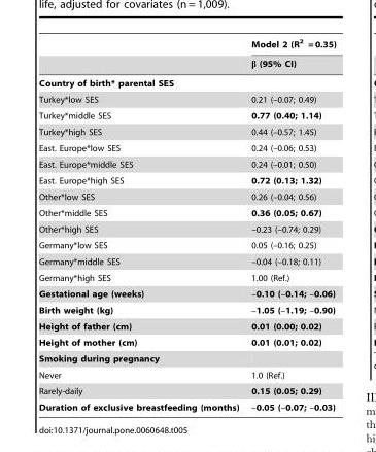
<table><thead><tr><td rowspan="2"></td><td rowspan="2">Model 2 (R<sup>2</sup> = 0.35) β (95% CI)</td></tr><tr></tr></thead><tbody><tr><td colspan="2">Country of birth* parental SES</td></tr><tr><td>Turkey*low SES</td><td>0.21 (–0.07; 0.49)</td></tr><tr><td>Turkey*middle SES</td><td>0.77 (0.40; 1.14)</td></tr><tr><td>Turkey*high SES</td><td>0.44 (–0.57; 1.45)</td></tr><tr><td>East. Europe*low SES</td><td>0.24 (–0.06; 0.53)</td></tr><tr><td>East. Europe*middle SES</td><td>0.24 (–0.01; 0.50)</td></tr><tr><td>East. Europe*high SES</td><td>0.72 (0.13; 1.32)</td></tr><tr><td>Other*low SES</td><td>0.26 (–0.04; 0.56)</td></tr><tr><td>Other*middle SES</td><td>0.36 (0.05; 0.67)</td></tr><tr><td>Other*high SES</td><td>–0.23 (–0.74; 0.29)</td></tr><tr><td>Germany*low SES</td><td>0.05 (–0.16; 0.25)</td></tr><tr><td>Germany*middle SES</td><td>–0.04 (–0.18; 0.11)</td></tr><tr><td>Germany*high SES</td><td>1.00 (Ref.)</td></tr><tr><td>Gestational age (weeks)</td><td>–0.10 (–0.14; –0.06)</td></tr><tr><td>Birth weight (kg)</td><td>–1.05 (–1.19; –0.90)</td></tr><tr><td>Height of father (cm)</td><td>0.01 (0.00; 0.02)</td></tr><tr><td>Height of mother (cm)</td><td>0.01 (0.01; 0.02)</td></tr><tr><td colspan="2">Smoking during pregnancy</td></tr><tr><td>Never</td><td>1.0 (Ref.)</td></tr><tr><td>Rarely-daily</td><td>0.15 (0.05; 0.29)</td></tr><tr><td>Duration of exclusive breastfeeding (months)</td><td>–0.05 (–0.07; –0.03)</td></tr></tbody></table>